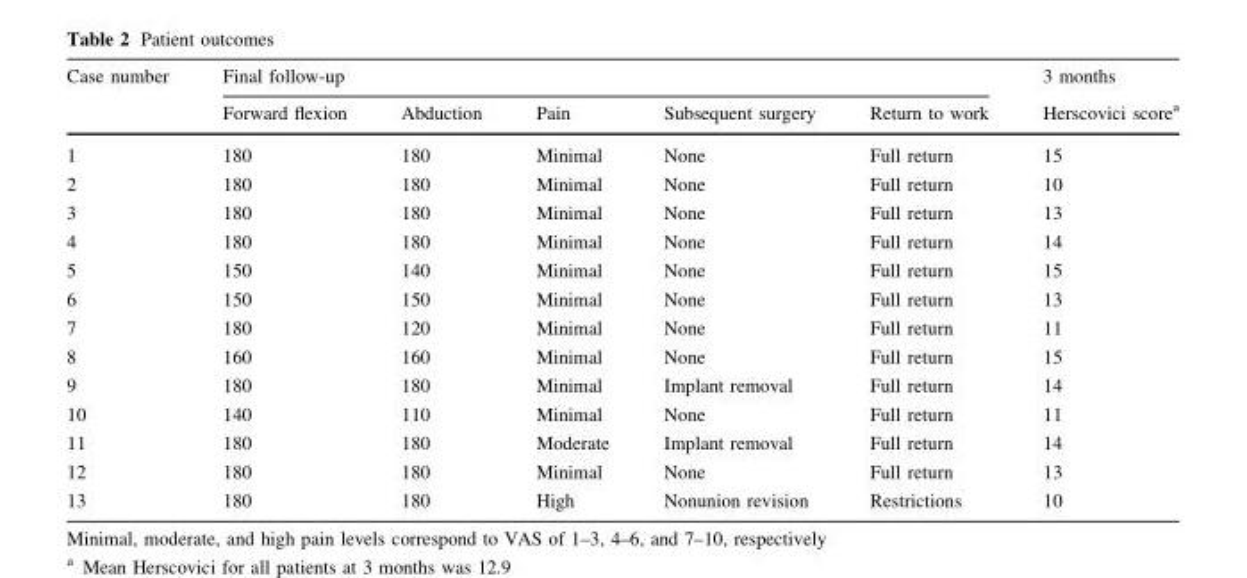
<table><thead><tr><td rowspan="2">Case number</td><td colspan="5">Final follow-up</td><td rowspan="2">3 months Herscovici score<sup>a</sup></td></tr><tr><td>Forward flexion</td><td>Abduction</td><td>Pain</td><td>Subsequent surgery</td><td>Return to work</td></tr></thead><tbody><tr><td>1</td><td>180</td><td>180</td><td>Minimal</td><td>None</td><td>Full return</td><td>15</td></tr><tr><td>2</td><td>180</td><td>180</td><td>Minimal</td><td>None</td><td>Full return</td><td>10</td></tr><tr><td>3</td><td>180</td><td>180</td><td>Minimal</td><td>None</td><td>Full return</td><td>13</td></tr><tr><td>4</td><td>180</td><td>180</td><td>Minimal</td><td>None</td><td>Full return</td><td>14</td></tr><tr><td>5</td><td>150</td><td>140</td><td>Minimal</td><td>None</td><td>Full return</td><td>15</td></tr><tr><td>6</td><td>150</td><td>150</td><td>Minimal</td><td>None</td><td>Full return</td><td>13</td></tr><tr><td>7</td><td>180</td><td>120</td><td>Minimal</td><td>None</td><td>Full return</td><td>11</td></tr><tr><td>8</td><td>160</td><td>160</td><td>Minimal</td><td>None</td><td>Full return</td><td>15</td></tr><tr><td>9</td><td>180</td><td>180</td><td>Minimal</td><td>Implant removal</td><td>Full return</td><td>14</td></tr><tr><td>10</td><td>140</td><td>110</td><td>Minimal</td><td>None</td><td>Full return</td><td>11</td></tr><tr><td>11</td><td>180</td><td>180</td><td>Moderate</td><td>Implant removal</td><td>Full return</td><td>14</td></tr><tr><td>12</td><td>180</td><td>180</td><td>Minimal</td><td>None</td><td>Full return</td><td>13</td></tr><tr><td>13</td><td>180</td><td>180</td><td>High</td><td>Nonunion revision</td><td>Restrictions</td><td>10</td></tr></tbody></table>